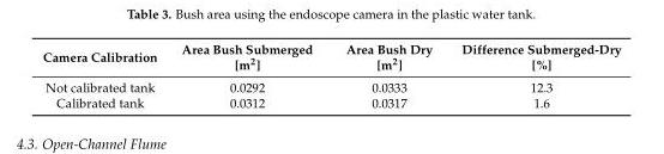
<table><thead><tr><td>Camera Calibration</td><td>Area Bush Submerged [m<sup>2</sup>]</td><td>Area Bush Dry [m<sup>2</sup>]</td><td>Difference Submerged-Dry [%]</td></tr></thead><tbody><tr><td>Not calibrated tank</td><td>0.0292</td><td>0.0333</td><td>12.3</td></tr><tr><td>Calibrated tank</td><td>0.0312</td><td>0.0317</td><td>1.6</td></tr></tbody></table>